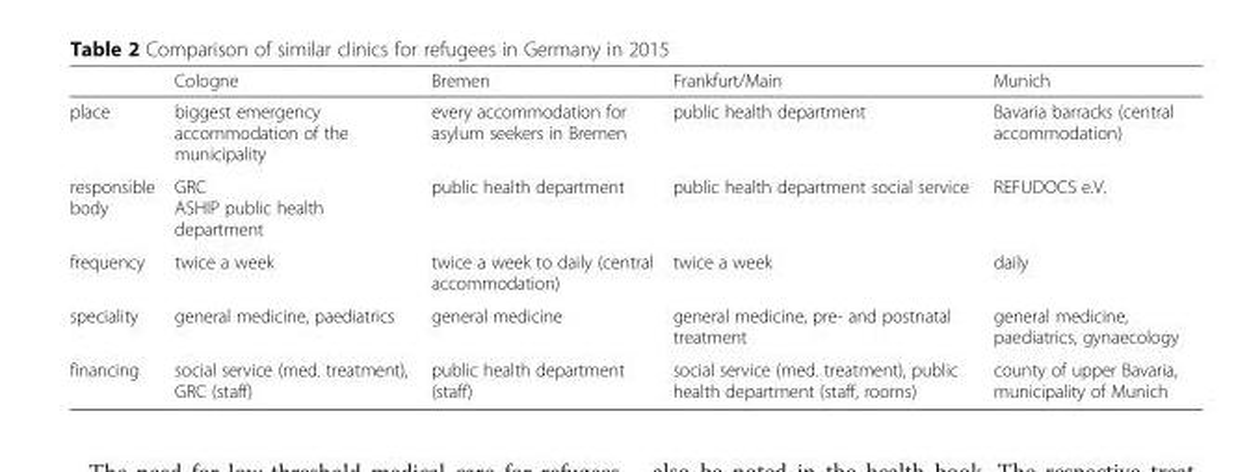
<table><thead><tr><td></td><td>Cologne</td><td>Bremen</td><td>Frankfurt/Main</td><td>Munich</td></tr></thead><tbody><tr><td>place</td><td>biggest emergency accommodation of the municipality</td><td>every accommodation for asylum seekers in Bremen</td><td>public health department</td><td>Bavaria barracks (central accommodation)</td></tr><tr><td>responsible body</td><td>GRC ASHIP public health department</td><td>public health department</td><td>public health department social service</td><td>REFUDOCS e.V.</td></tr><tr><td>frequency</td><td>twice a week</td><td>twice a week to daily (central accommodation)</td><td>twice a week</td><td>daily</td></tr><tr><td>speciality</td><td>general medicine, paediatrics</td><td>general medicine</td><td>general medicine, pre- and postnatal treatment</td><td>general medicine, paediatrics, gynaecology</td></tr><tr><td>financing</td><td>social service (med. treatment), GRC (staff)</td><td>public health department (staff)</td><td>social service (med. treatment), public health department (staff, rooms)</td><td>county of upper Bavaria, municipality of Munich</td></tr></tbody></table>